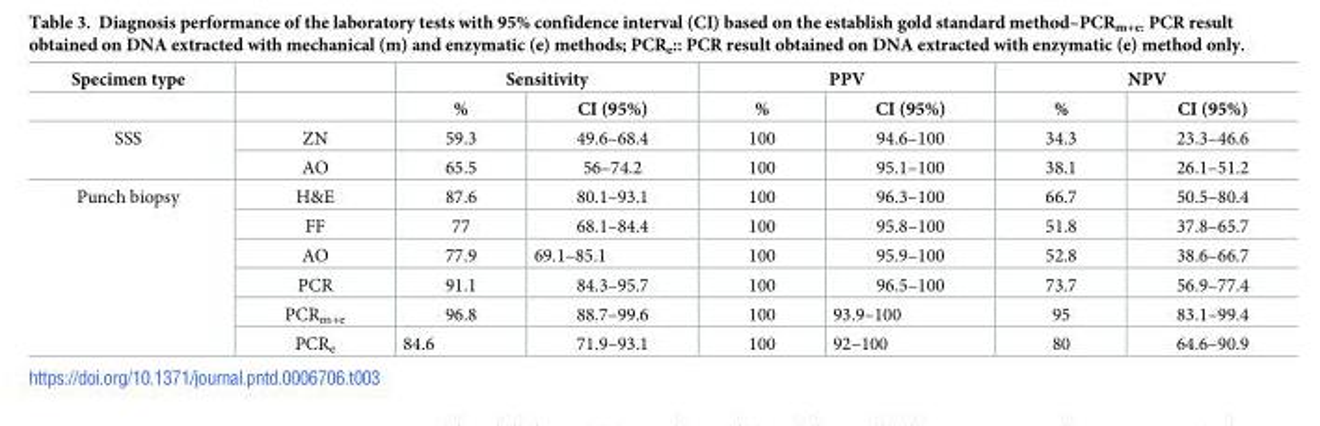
<table><thead><tr><td rowspan="2">Specimen type</td><td rowspan="2"></td><td colspan="2">Sensitivity</td><td colspan="2">PPV</td><td colspan="2">NPV</td></tr><tr><td>%</td><td>CI (95%)</td><td>%</td><td>CI (95%)</td><td>%</td><td>CI (95%)</td></tr></thead><tbody><tr><td rowspan="2">SSS</td><td>ZN</td><td>59.3</td><td>49.6–68.4</td><td>100</td><td>94.6–100</td><td>34.3</td><td>23.3–46.6</td></tr><tr><td>AO</td><td>65.5</td><td>56–74.2</td><td>100</td><td>95.1–100</td><td>38.1</td><td>26.1–51.2</td></tr><tr><td rowspan="6">Punch biopsy</td><td>H&amp;E</td><td>87.6</td><td>80.1–93.1</td><td>100</td><td>96.3–100</td><td>66.7</td><td>50.5–80.4</td></tr><tr><td>FF</td><td>77</td><td>68.1–84.4</td><td>100</td><td>95.8–100</td><td>51.8</td><td>37.8–65.7</td></tr><tr><td>AO</td><td>77.9</td><td>69.1–85.1</td><td>100</td><td>95.9–100</td><td>52.8</td><td>38.6–66.7</td></tr><tr><td>PCR</td><td>91.1</td><td>84.3–95.7</td><td>100</td><td>96.5–100</td><td>73.7</td><td>56.9–77.4</td></tr><tr><td>PCR<sub>m+e</sub></td><td>96.8</td><td>88.7–99.6</td><td>100</td><td>93.9–100</td><td>95</td><td>83.1–99.4</td></tr><tr><td>PCR<sub>e</sub></td><td>84.6</td><td>71.9–93.1</td><td>100</td><td>92–100</td><td>80</td><td>64.6–90.9</td></tr></tbody></table>